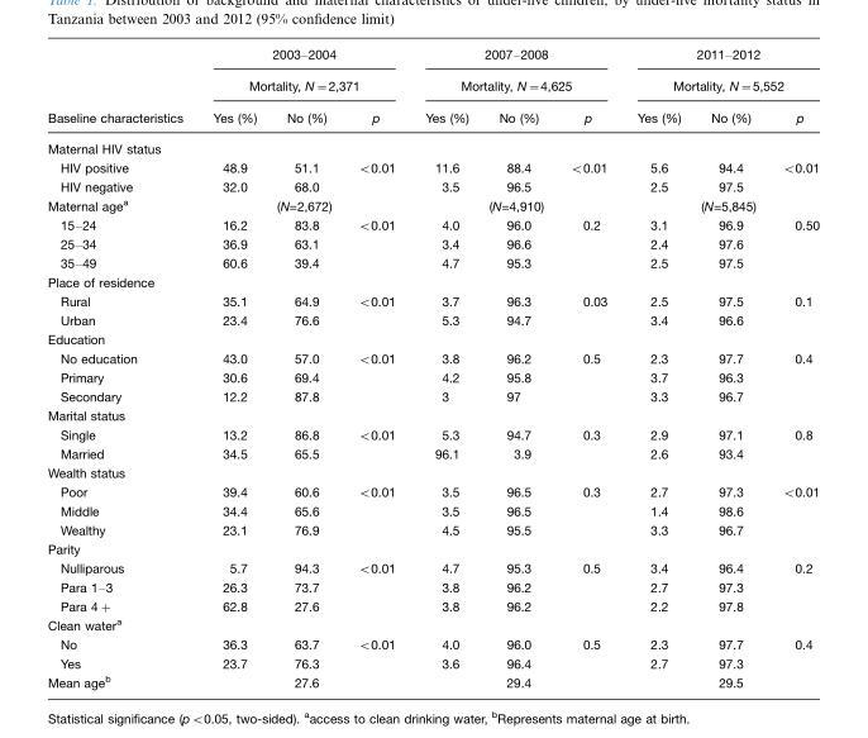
<table><thead><tr><td rowspan="3">Baseline characteristics</td><td rowspan="2" colspan="3">2003–2004 Mortality, N=2,371</td><td rowspan="2" colspan="3">2007–2008 Mortality, N=4,625</td><td rowspan="2" colspan="3">2011–2012 Mortality, N=5,552</td></tr><tr></tr><tr><td>Yes (%)</td><td>No (%)</td><td>p</td><td>Yes (%)</td><td>No (%)</td><td>p</td><td>Yes (%)</td><td>No (%)</td><td>p</td></tr></thead><tbody><tr><td colspan="10">Maternal HIV status</td></tr><tr><td>HIV positive</td><td>48.9</td><td>51.1</td><td>&lt;0.01</td><td>11.6</td><td>88.4</td><td>&lt;0.01</td><td>5.6</td><td>94.4</td><td>&lt;0.01</td></tr><tr><td>HIV negative</td><td>32.0</td><td>68.0</td><td></td><td>3.5</td><td>96.5</td><td></td><td>2.5</td><td>97.5</td><td></td></tr><tr><td>Maternal age<sup>a</sup></td><td colspan="3">(N=2,672)</td><td colspan="3">(N=4,910)</td><td colspan="3">(N=5,845)</td></tr><tr><td>15–24</td><td>16.2</td><td>83.8</td><td>&lt;0.01</td><td>4.0</td><td>96.0</td><td>0.2</td><td>3.1</td><td>96.9</td><td>0.50</td></tr><tr><td>25–34</td><td>36.9</td><td>63.1</td><td></td><td>3.4</td><td>96.6</td><td></td><td>2.4</td><td>97.6</td><td></td></tr><tr><td>35–49</td><td>60.6</td><td>39.4</td><td></td><td>4.7</td><td>95.3</td><td></td><td>2.5</td><td>97.5</td><td></td></tr><tr><td colspan="10">Place of residence</td></tr><tr><td>Rural</td><td>35.1</td><td>64.9</td><td>&lt;0.01</td><td>3.7</td><td>96.3</td><td>0.03</td><td>2.5</td><td>97.5</td><td>0.1</td></tr><tr><td>Urban</td><td>23.4</td><td>76.6</td><td></td><td>5.3</td><td>94.7</td><td></td><td>3.4</td><td>96.6</td><td></td></tr><tr><td colspan="10">Education</td></tr><tr><td>No education</td><td>43.0</td><td>57.0</td><td>&lt;0.01</td><td>3.8</td><td>96.2</td><td>0.5</td><td>2.3</td><td>97.7</td><td>0.4</td></tr><tr><td>Primary</td><td>30.6</td><td>69.4</td><td></td><td>4.2</td><td>95.8</td><td></td><td>3.7</td><td>96.3</td><td></td></tr><tr><td>Secondary</td><td>12.2</td><td>87.8</td><td></td><td>3</td><td>97</td><td></td><td>3.3</td><td>96.7</td><td></td></tr><tr><td colspan="10">Marital status</td></tr><tr><td>Single</td><td>13.2</td><td>86.8</td><td>&lt;0.01</td><td>5.3</td><td>94.7</td><td>0.3</td><td>2.9</td><td>97.1</td><td>0.8</td></tr><tr><td>Married</td><td>34.5</td><td>65.5</td><td></td><td>96.1</td><td>3.9</td><td></td><td>2.6</td><td>93.4</td><td></td></tr><tr><td colspan="10">Wealth status</td></tr><tr><td>Poor</td><td>39.4</td><td>60.6</td><td>&lt;0.01</td><td>3.5</td><td>96.5</td><td>0.3</td><td>2.7</td><td>97.3</td><td>&lt;0.01</td></tr><tr><td>Middle</td><td>34.4</td><td>65.6</td><td></td><td>3.5</td><td>96.5</td><td></td><td>1.4</td><td>98.6</td><td></td></tr><tr><td>Wealthy</td><td>23.1</td><td>76.9</td><td></td><td>4.5</td><td>95.5</td><td></td><td>3.3</td><td>96.7</td><td></td></tr><tr><td colspan="10">Parity</td></tr><tr><td>Nulliparous</td><td>5.7</td><td>94.3</td><td>&lt;0.01</td><td>4.7</td><td>95.3</td><td>0.5</td><td>3.4</td><td>96.4</td><td>0.2</td></tr><tr><td>Para 1–3</td><td>26.3</td><td>73.7</td><td></td><td>3.8</td><td>96.2</td><td></td><td>2.7</td><td>97.3</td><td></td></tr><tr><td>Para 4+</td><td>62.8</td><td>27.6</td><td></td><td>3.8</td><td>96.2</td><td></td><td>2.2</td><td>97.8</td><td></td></tr><tr><td colspan="10">Clean water<sup>a</sup></td></tr><tr><td>No</td><td>36.3</td><td>63.7</td><td>&lt;0.01</td><td>4.0</td><td>96.0</td><td>0.5</td><td>2.3</td><td>97.7</td><td>0.4</td></tr><tr><td>Yes</td><td>23.7</td><td>76.3</td><td></td><td>3.6</td><td>96.4</td><td></td><td>2.7</td><td>97.3</td><td></td></tr><tr><td>Mean age<sup>b</sup></td><td colspan="3">27.6</td><td colspan="3">29.4</td><td colspan="3">29.5</td></tr></tbody></table>